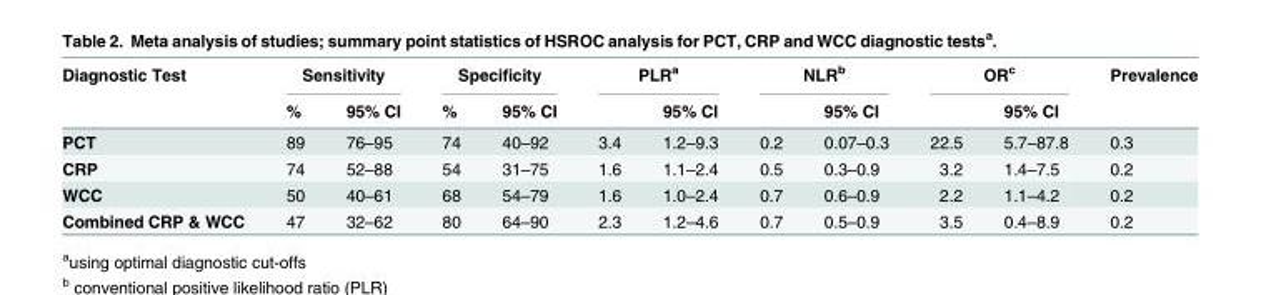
<table><thead><tr><td rowspan="2">Diagnostic Test</td><td colspan="2">Sensitivity</td><td colspan="2">Specificity</td><td colspan="2">PLR<sup>a</sup></td><td colspan="2">NLR<sup>b</sup></td><td colspan="2">OR<sup>c</sup></td><td rowspan="2">Prevalence</td></tr><tr><td>%</td><td>95% CI</td><td>%</td><td>95% CI</td><td></td><td>95% CI</td><td></td><td>95% CI</td><td></td><td>95% CI</td></tr></thead><tbody><tr><td>PCT</td><td>89</td><td>76–95</td><td>74</td><td>40–92</td><td>3.4</td><td>1.2–9.3</td><td>0.2</td><td>0.07–0.3</td><td>22.5</td><td>5.7–87.8</td><td>0.3</td></tr><tr><td>CRP</td><td>74</td><td>52–88</td><td>54</td><td>31–75</td><td>1.6</td><td>1.1–2.4</td><td>0.5</td><td>0.3–0.9</td><td>3.2</td><td>1.4–7.5</td><td>0.2</td></tr><tr><td>WCC</td><td>50</td><td>40–61</td><td>68</td><td>54–79</td><td>1.6</td><td>1.0–2.4</td><td>0.7</td><td>0.6–0.9</td><td>2.2</td><td>1.1–4.2</td><td>0.2</td></tr><tr><td>Combined CRP &amp; WCC</td><td>47</td><td>32–62</td><td>80</td><td>64–90</td><td>2.3</td><td>1.2–4.6</td><td>0.7</td><td>0.5–0.9</td><td>3.5</td><td>0.4–8.9</td><td>0.2</td></tr></tbody></table>